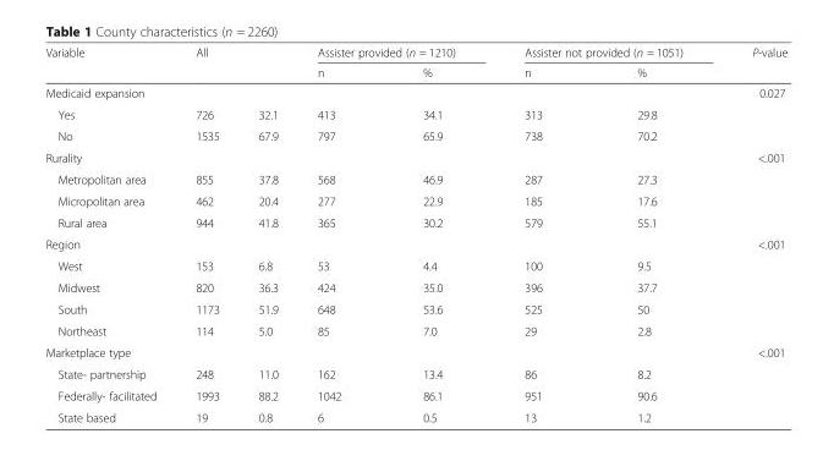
<table><thead><tr><td rowspan="3">Variable Medicaid expansion</td><td rowspan="2" colspan="2">All</td><td colspan="2">Assister provided (n = 1210)</td><td colspan="2">Assister not provided (n = 1051)</td><td rowspan="3">P-value 0.027</td></tr><tr><td rowspan="2">n</td><td rowspan="2">%</td><td rowspan="2">n</td><td rowspan="2">%</td></tr><tr><td></td><td></td></tr></thead><tbody><tr><td>Yes</td><td>726</td><td>32.1</td><td>413</td><td>34.1</td><td>313</td><td>29.8</td><td></td></tr><tr><td>No</td><td>1535</td><td>67.9</td><td>797</td><td>65.9</td><td>738</td><td>70.2</td><td></td></tr><tr><td>Rurality</td><td></td><td></td><td></td><td></td><td></td><td></td><td>&lt;.001</td></tr><tr><td>Metropolitan area</td><td>855</td><td>37.8</td><td>568</td><td>46.9</td><td>287</td><td>27.3</td><td></td></tr><tr><td>Micropolitan area</td><td>462</td><td>20.4</td><td>277</td><td>22.9</td><td>185</td><td>17.6</td><td></td></tr><tr><td>Rural area</td><td>944</td><td>41.8</td><td>365</td><td>30.2</td><td>579</td><td>55.1</td><td></td></tr><tr><td>Region</td><td></td><td></td><td></td><td></td><td></td><td></td><td>&lt;.001</td></tr><tr><td>West</td><td>153</td><td>6.8</td><td>53</td><td>4.4</td><td>100</td><td>9.5</td><td></td></tr><tr><td>Midwest</td><td>820</td><td>36.3</td><td>424</td><td>35.0</td><td>396</td><td>37.7</td><td></td></tr><tr><td>South</td><td>1173</td><td>51.9</td><td>648</td><td>53.6</td><td>525</td><td>50</td><td></td></tr><tr><td>Northeast</td><td>114</td><td>5.0</td><td>85</td><td>7.0</td><td>29</td><td>2.8</td><td></td></tr><tr><td>Marketplace type</td><td></td><td></td><td></td><td></td><td></td><td></td><td>&lt;.001</td></tr><tr><td>State- partnership</td><td>248</td><td>11.0</td><td>162</td><td>13.4</td><td>86</td><td>8.2</td><td></td></tr><tr><td>Federally- facilitated</td><td>1993</td><td>88.2</td><td>1042</td><td>86.1</td><td>951</td><td>90.6</td><td></td></tr><tr><td>State based</td><td>19</td><td>0.8</td><td>6</td><td>0.5</td><td>13</td><td>1.2</td><td></td></tr></tbody></table>